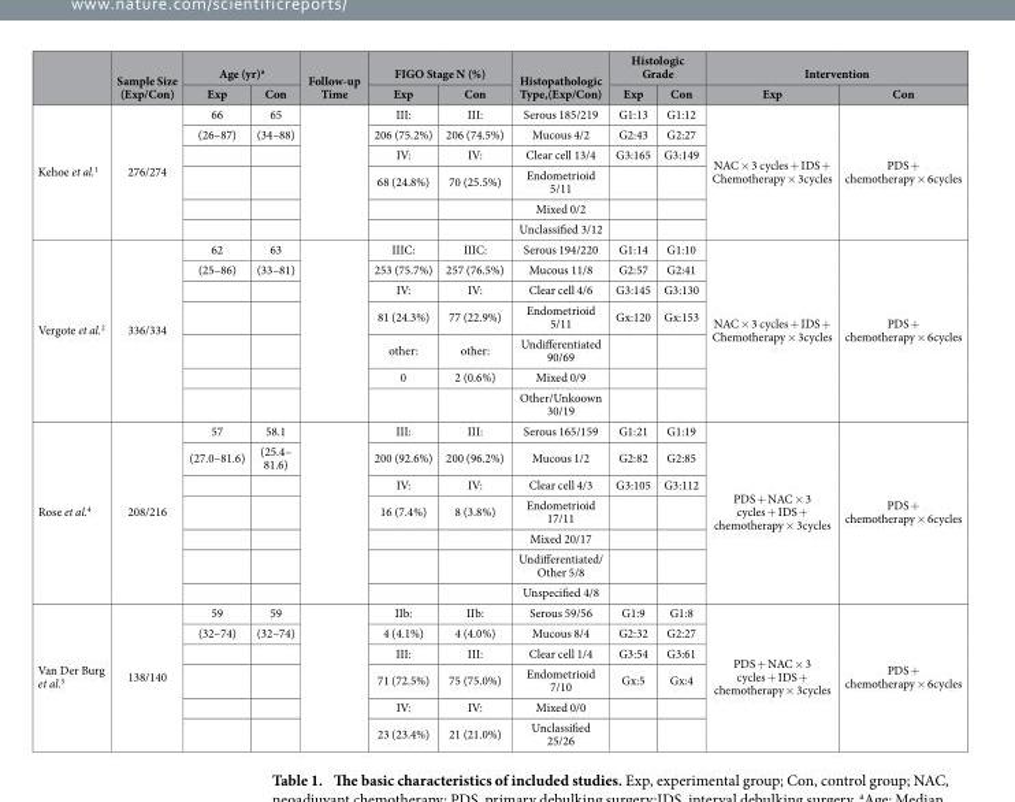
<table><thead><tr><td rowspan="2"></td><td rowspan="2">Sample Size (Exp/Con)</td><td colspan="2">Age (yr)<sup>a</sup></td><td rowspan="2">Follow-up Time</td><td colspan="2">FIGO Stage N (%)</td><td rowspan="2">Histopathologic Type,(Exp/Con)</td><td colspan="2">Histologic Grade</td><td colspan="2">Intervention</td></tr><tr><td>Exp</td><td>Con</td><td>Exp</td><td>Con</td><td>Exp</td><td>Con</td><td>Exp</td><td>Con</td></tr></thead><tbody><tr><td rowspan="6">Kehoe et al.<sup>1</sup></td><td rowspan="6">276/274</td><td>66</td><td>65</td><td rowspan="6"></td><td>III:</td><td>III:</td><td>Serous 185/219</td><td>G1:13</td><td>G1:12</td><td rowspan="6">NAC × 3 cycles + IDS + Chemotherapy × 3cycles</td><td rowspan="6">PDS + chemotherapy × 6cycles</td></tr><tr><td>(26–87)</td><td>(34–88)</td><td>206 (75.2%)</td><td>206 (74.5%)</td><td>Mucous 4/2</td><td>G2:43</td><td>G2:27</td></tr><tr><td></td><td></td><td>IV:</td><td>IV:</td><td>Clear cell 13/4</td><td>G3:165</td><td>G3:149</td></tr><tr><td></td><td></td><td>68 (24.8%)</td><td>70 (25.5%)</td><td>Endometrioid 5/11</td><td></td><td></td></tr><tr><td></td><td></td><td></td><td></td><td>Mixed 0/2</td><td></td><td></td></tr><tr><td></td><td></td><td></td><td></td><td>Unclassified 3/12</td><td></td><td></td></tr><tr><td rowspan="7">Vergote et al.<sup>2</sup></td><td rowspan="7">336/334</td><td>62</td><td>63</td><td rowspan="7"></td><td>IIIC:</td><td>IIIC:</td><td>Serous 194/220</td><td>G1:14</td><td>G1:10</td><td rowspan="7">NAC × 3 cycles + IDS + Chemotherapy × 3cycles</td><td rowspan="7">PDS + chemotherapy × 6cycles</td></tr><tr><td>(25–86)</td><td>(33–81)</td><td>253 (75.7%)</td><td>257 (76.5%)</td><td>Mucous 11/8</td><td>G2:57</td><td>G2:41</td></tr><tr><td></td><td></td><td>IV:</td><td>IV:</td><td>Clear cell 4/6</td><td>G3:145</td><td>G3:130</td></tr><tr><td></td><td></td><td>81 (24.3%)</td><td>77 (22.9%)</td><td>Endometrioid 5/11</td><td>Gx:120</td><td>Gx:153</td></tr><tr><td></td><td></td><td>other:</td><td>other:</td><td>Undifferentiated 90/69</td><td></td><td></td></tr><tr><td></td><td></td><td>0</td><td>2 (0.6%)</td><td>Mixed 0/9</td><td></td><td></td></tr><tr><td></td><td></td><td></td><td></td><td>Other/Unkoown 30/19</td><td></td><td></td></tr><tr><td rowspan="7">Rose et al.<sup>4</sup></td><td rowspan="7">208/216</td><td>57</td><td>58.1</td><td rowspan="7"></td><td>III:</td><td>III:</td><td>Serous 165/159</td><td>G1:21</td><td>G1:19</td><td rowspan="7">PDS + NAC × 3 cycles + IDS + chemotherapy × 3cycles</td><td rowspan="7">PDS + chemotherapy × 6cycles</td></tr><tr><td>(27.0–81.6)</td><td>(25.4– 81.6)</td><td>200 (92.6%)</td><td>200 (96.2%)</td><td>Mucous 1/2</td><td>G2:82</td><td>G2:85</td></tr><tr><td></td><td></td><td>IV:</td><td>IV:</td><td>Clear cell 4/3</td><td>G3:105</td><td>G3:112</td></tr><tr><td></td><td></td><td>16 (7.4%)</td><td>8 (3.8%)</td><td>Endometrioid 17/11</td><td></td><td></td></tr><tr><td></td><td></td><td></td><td></td><td>Mixed 20/17</td><td></td><td></td></tr><tr><td></td><td></td><td></td><td></td><td>Undifferentiated/ Other 5/8</td><td></td><td></td></tr><tr><td></td><td></td><td></td><td></td><td>Unspecified 4/8</td><td></td><td></td></tr><tr><td rowspan="6">Van Der Burg et al.<sup>5</sup></td><td rowspan="6">138/140</td><td>59</td><td>59</td><td rowspan="6"></td><td>IIb:</td><td>IIb:</td><td>Serous 59/56</td><td>G1:9</td><td>G1:8</td><td rowspan="6">PDS + NAC × 3 cycles + IDS + chemotherapy × 3cycles</td><td rowspan="6">PDS + chemotherapy × 6cycles</td></tr><tr><td>(32–74)</td><td>(32–74)</td><td>4 (4.1%)</td><td>4 (4.0%)</td><td>Mucous 8/4</td><td>G2:32</td><td>G2:27</td></tr><tr><td></td><td></td><td>III:</td><td>III:</td><td>Clear cell 1/4</td><td>G3:54</td><td>G3:61</td></tr><tr><td></td><td></td><td>71 (72.5%)</td><td>75 (75.0%)</td><td>Endometrioid 7/10</td><td>Gx:5</td><td>Gx:4</td></tr><tr><td></td><td></td><td>IV:</td><td>IV:</td><td>Mixed 0/0</td><td></td><td></td></tr><tr><td></td><td></td><td>23 (23.4%)</td><td>21 (21.0%)</td><td>Unclassified 25/26</td><td></td><td></td></tr></tbody></table>